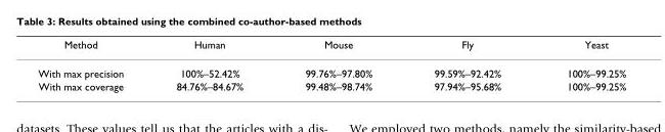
<table><thead><tr><td>Method</td><td>Human</td><td>Mouse</td><td>Fly</td><td>Yeast</td></tr></thead><tbody><tr><td>With max precision</td><td>100%–52.42%</td><td>99.76%–97.80%</td><td>99.59%–92.42%</td><td>100%–99.25%</td></tr><tr><td>With max coverage</td><td>84.76%–84.67%</td><td>99.48%–98.74%</td><td>97.94%–95.68%</td><td>100%–99.25%</td></tr></tbody></table>